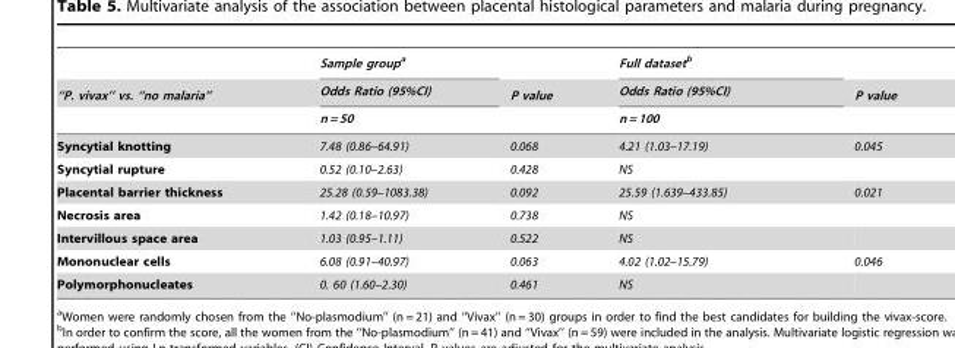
<table><thead><tr><td rowspan="3">‘‘P. vivax’’ vs. ‘‘no malaria’’</td><td rowspan="3">Sample groupa Odds Ratio (95%CI) n = 50</td><td rowspan="3">P value</td><td rowspan="3">Full datasetb Odds Ratio (95%CI) n = 100</td><td rowspan="3">P value</td></tr><tr></tr><tr></tr></thead><tbody><tr><td>Syncytial knotting</td><td>7.48 (0.86–64.91)</td><td>0.068</td><td>4.21 (1.03–17.19)</td><td>0.045</td></tr><tr><td>Syncytial rupture</td><td>0.52 (0.10–2.63)</td><td>0.428</td><td>NS</td><td></td></tr><tr><td>Placental barrier thickness</td><td>25.28 (0.59–1083.38)</td><td>0.092</td><td>25.59 (1.639–433.85)</td><td>0.021</td></tr><tr><td>Necrosis area</td><td>1.42 (0.18–10.97)</td><td>0.738</td><td>NS</td><td></td></tr><tr><td>Intervillous space area</td><td>1.03 (0.95–1.11)</td><td>0.522</td><td>NS</td><td></td></tr><tr><td>Mononuclear cells</td><td>6.08 (0.91–40.97)</td><td>0.063</td><td>4.02 (1.02–15.79)</td><td>0.046</td></tr><tr><td>Polymorphonucleates</td><td>0. 60 (1.60–2.30)</td><td>0.461</td><td>NS</td><td></td></tr></tbody></table>